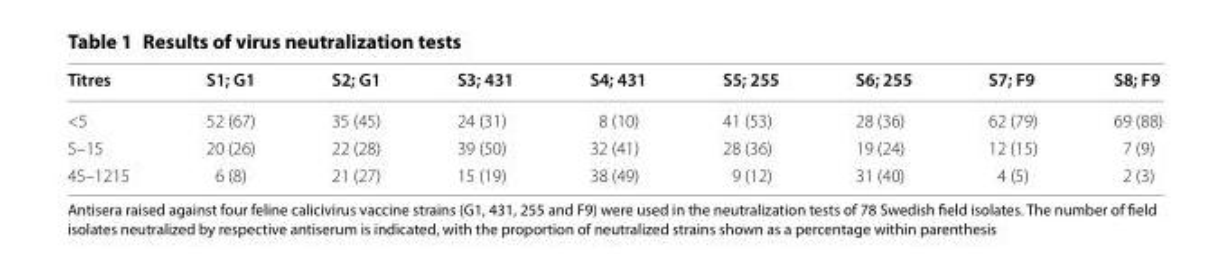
<table><thead><tr><td>Titres</td><td>S1; G1</td><td>S2; G1</td><td>S3; 431</td><td>S4; 431</td><td>S5; 255</td><td>S6; 255</td><td>S7; F9</td><td>S8; F9</td></tr></thead><tbody><tr><td>&lt;5</td><td>52 (67)</td><td>35 (45)</td><td>24 (31)</td><td>8 (10)</td><td>41 (53)</td><td>28 (36)</td><td>62 (79)</td><td>69 (88)</td></tr><tr><td>5–15</td><td>20 (26)</td><td>22 (28)</td><td>39 (50)</td><td>32 (41)</td><td>28 (36)</td><td>19 (24)</td><td>12 (15)</td><td>7 (9)</td></tr><tr><td>45–1215</td><td>6 (8)</td><td>21 (27)</td><td>15 (19)</td><td>38 (49)</td><td>9 (12)</td><td>31 (40)</td><td>4 (5)</td><td>2 (3)</td></tr></tbody></table>